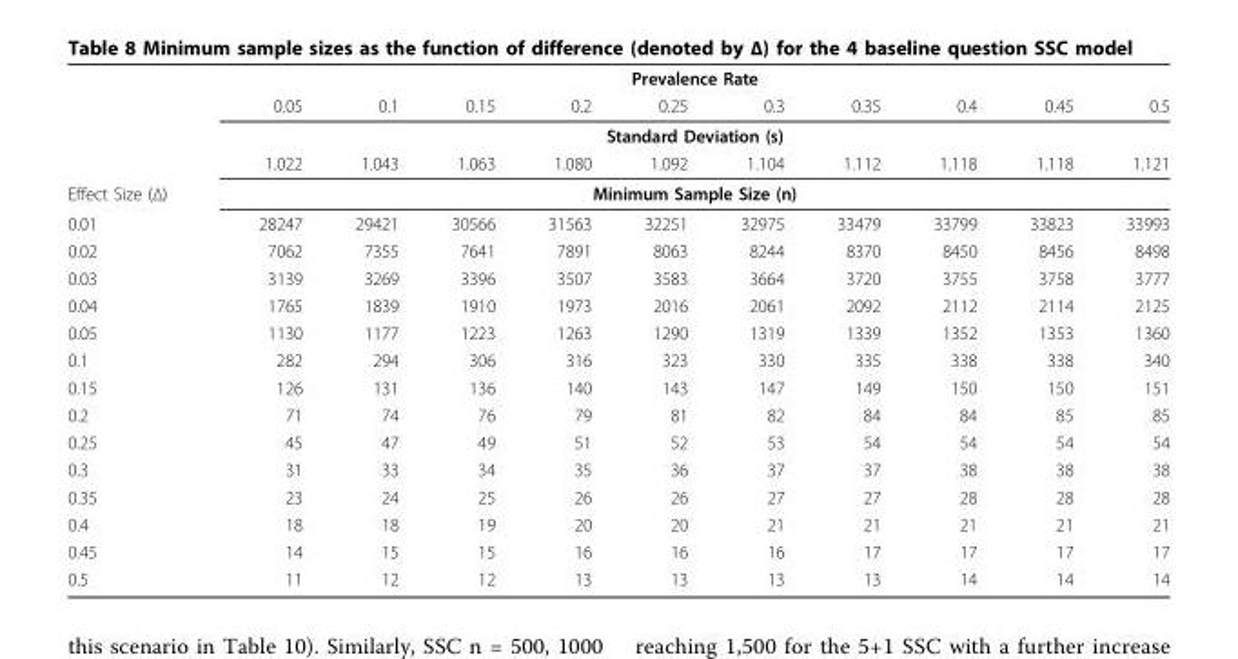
<table><thead><tr><td rowspan="2"></td><td colspan="10">Prevalence Rate</td></tr><tr><td>0.05</td><td>0.1</td><td>0.15</td><td>0.2</td><td>0.25</td><td>0.3</td><td>0.35</td><td>0.4</td><td>0.45</td><td>0.5</td></tr></thead><tbody><tr><td></td><td colspan="10">Standard Deviation (s)</td></tr><tr><td></td><td>1.022</td><td>1.043</td><td>1.063</td><td>1.080</td><td>1.092</td><td>1.104</td><td>1.112</td><td>1.118</td><td>1.118</td><td>1.121</td></tr><tr><td>Effect Size (Δ)</td><td colspan="10">Minimum Sample Size (n)</td></tr><tr><td>0.01</td><td>28247</td><td>29421</td><td>30566</td><td>31563</td><td>32251</td><td>32975</td><td>33479</td><td>33799</td><td>33823</td><td>33993</td></tr><tr><td>0.02</td><td>7062</td><td>7355</td><td>7641</td><td>7891</td><td>8063</td><td>8244</td><td>8370</td><td>8450</td><td>8456</td><td>8498</td></tr><tr><td>0.03</td><td>3139</td><td>3269</td><td>3396</td><td>3507</td><td>3583</td><td>3664</td><td>3720</td><td>3755</td><td>3758</td><td>3777</td></tr><tr><td>0.04</td><td>1765</td><td>1839</td><td>1910</td><td>1973</td><td>2016</td><td>2061</td><td>2092</td><td>2112</td><td>2114</td><td>2125</td></tr><tr><td>0.05</td><td>1130</td><td>1177</td><td>1223</td><td>1263</td><td>1290</td><td>1319</td><td>1339</td><td>1352</td><td>1353</td><td>1360</td></tr><tr><td>0.1</td><td>282</td><td>294</td><td>306</td><td>316</td><td>323</td><td>330</td><td>335</td><td>338</td><td>338</td><td>340</td></tr><tr><td>0.15</td><td>126</td><td>131</td><td>136</td><td>140</td><td>143</td><td>147</td><td>149</td><td>150</td><td>150</td><td>151</td></tr><tr><td>0.2</td><td>71</td><td>74</td><td>76</td><td>79</td><td>81</td><td>82</td><td>84</td><td>84</td><td>85</td><td>85</td></tr><tr><td>0.25</td><td>45</td><td>47</td><td>49</td><td>51</td><td>52</td><td>53</td><td>54</td><td>54</td><td>54</td><td>54</td></tr><tr><td>0.3</td><td>31</td><td>33</td><td>34</td><td>35</td><td>36</td><td>37</td><td>37</td><td>38</td><td>38</td><td>38</td></tr><tr><td>0.35</td><td>23</td><td>24</td><td>25</td><td>26</td><td>26</td><td>27</td><td>27</td><td>28</td><td>28</td><td>28</td></tr><tr><td>0.4</td><td>18</td><td>18</td><td>19</td><td>20</td><td>20</td><td>21</td><td>21</td><td>21</td><td>21</td><td>21</td></tr><tr><td>0.45</td><td>14</td><td>15</td><td>15</td><td>16</td><td>16</td><td>16</td><td>17</td><td>17</td><td>17</td><td>17</td></tr><tr><td>0.5</td><td>11</td><td>12</td><td>12</td><td>13</td><td>13</td><td>13</td><td>13</td><td>14</td><td>14</td><td>14</td></tr></tbody></table>